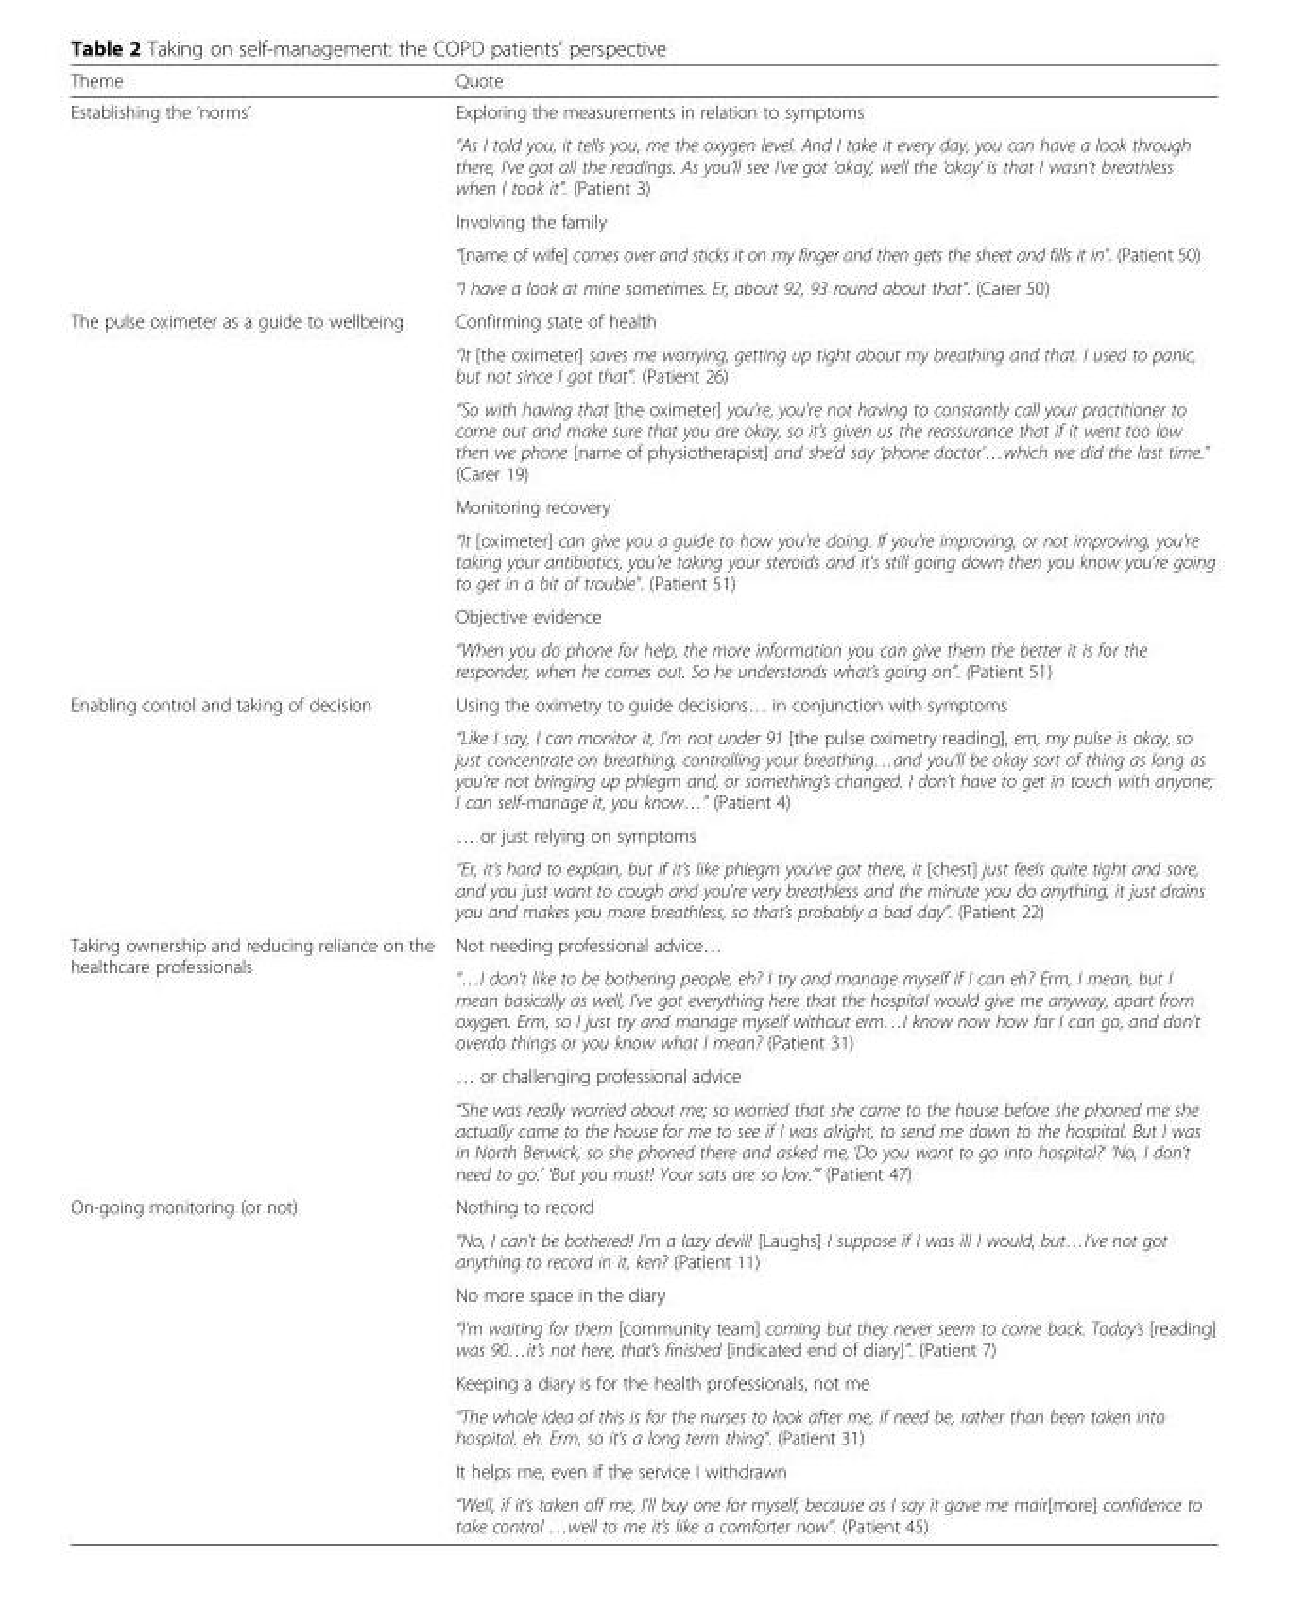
<table><thead><tr><td>Theme</td><td>Quote</td></tr></thead><tbody><tr><td rowspan="5">Establishing the ‘norms’</td><td>Exploring the measurements in relation to symptoms</td></tr><tr><td>“As I told you, it tells you, me the oxygen level. And I take it every day, you can have a look through there, I’ve got all the readings. As you’ll see I’ve got ‘okay’, well the ‘okay’ is that I wasn’t breathless when I took it”. (Patient 3)</td></tr><tr><td>Involving the family</td></tr><tr><td>“[name of wife] comes over and sticks it on my finger and then gets the sheet and fills it in”. (Patient 50)</td></tr><tr><td>“I have a look at mine sometimes. Er, about 92, 93 round about that”. (Carer 50)</td></tr><tr><td rowspan="7">The pulse oximeter as a guide to wellbeing</td><td>Confirming state of health</td></tr><tr><td>“It [the oximeter] saves me worrying, getting up tight about my breathing and that. I used to panic, but not since I got that”. (Patient 26)</td></tr><tr><td>“So with having that [the oximeter] you’re, you’re not having to constantly call your practitioner to come out and make sure that you are okay, so it’s given us the reassurance that if it went too low then we phone [name of physiotherapist] and she‘d say ‘phone doctor’…which we did the last time.” (Carer 19)</td></tr><tr><td>Monitoring recovery</td></tr><tr><td>“It [oximeter] can give you a guide to how you&#x27;re doing. If you&#x27;re improving, or not improving, you&#x27;re taking your antibiotics, you&#x27;re taking your steroids and it&#x27;s still going down then you know you&#x27;re going to get in a bit of trouble”. (Patient 51)</td></tr><tr><td>Objective evidence</td></tr><tr><td>“When you do phone for help, the more information you can give them the better it is for the responder, when he comes out. So he understands what’s going on”. (Patient 51)</td></tr><tr><td rowspan="4">Enabling control and taking of decision</td><td>Using the oximetry to guide decisions… in conjunction with symptoms</td></tr><tr><td>“Like I say, I can monitor it, I’m not under 91 [the pulse oximetry reading], em, my pulse is okay, so just concentrate on breathing, controlling your breathing…and you’ll be okay sort of thing as long as you’re not bringing up phlegm and, or something’s changed. I don’t have to get in touch with anyone; I can self-manage it, you know…” (Patient 4)</td></tr><tr><td>… or just relying on symptoms</td></tr><tr><td>“Er, it’s hard to explain, but if it’s like phlegm you’ve got there, it [chest] just feels quite tight and sore, and you just want to cough and you’re very breathless and the minute you do anything, it just drains you and makes you more breathless, so that’s probably a bad day”. (Patient 22)</td></tr><tr><td rowspan="4">Taking ownership and reducing reliance on the healthcare professionals</td><td>Not needing professional advice…</td></tr><tr><td>“…I don’t like to be bothering people, eh? I try and manage myself if I can eh? Erm, I mean, but I mean basically as well, I’ve got everything here that the hospital would give me anyway, apart from oxygen. Erm, so I just try and manage myself without erm…I know now how far I can go, and don’t overdo things or you know what I mean? (Patient 31)</td></tr><tr><td>… or challenging professional advice</td></tr><tr><td>“She was really worried about me; so worried that she came to the house before she phoned me she actually came to the house for me to see if I was alright, to send me down to the hospital. But I was in North Berwick, so she phoned there and asked me, ‘Do you want to go into hospital?’ ‘No, I don’t need to go.’ ‘But you must! Your sats are so low.’” (Patient 47)</td></tr><tr><td rowspan="8">On-going monitoring (or not)</td><td>Nothing to record</td></tr><tr><td>“No, I can’t be bothered! I’m a lazy devil! [Laughs] I suppose if I was ill I would, but…I’ve not got anything to record in it, ken? (Patient 11)</td></tr><tr><td>No more space in the diary</td></tr><tr><td>“I’m waiting for them [community team] coming but they never seem to come back. Today’s [reading] was 90…it’s not here, that’s finished [indicated end of diary]”. (Patient 7)</td></tr><tr><td>Keeping a diary is for the health professionals, not me</td></tr><tr><td>“The whole idea of this is for the nurses to look after me, if need be, rather than been taken into hospital, eh. Erm, so it’s a long term thing”. (Patient 31)</td></tr><tr><td>It helps me, even if the service I withdrawn</td></tr><tr><td>“Well, if it’s taken off me, I’ll buy one for myself, because as I say it gave me mair[more] confidence to take control …well to me it’s like a comforter now”. (Patient 45)</td></tr></tbody></table>